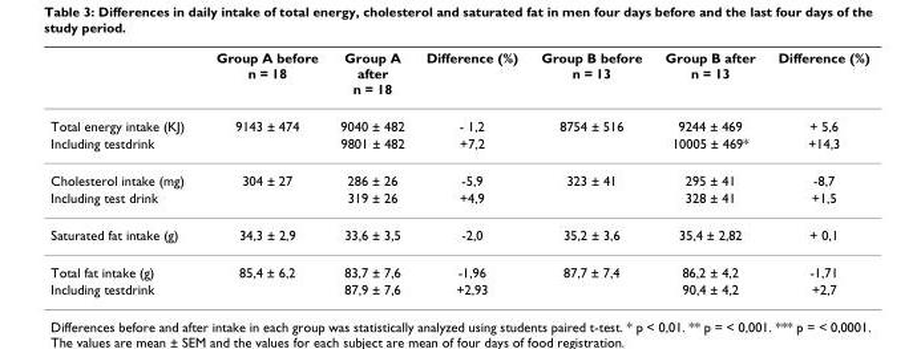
<table><thead><tr><td></td><td>Group A before n = 18</td><td>Group A after n = 18</td><td>Difference (%)</td><td>Group B before n = 13</td><td>Group B after n = 13</td><td>Difference (%)</td></tr></thead><tbody><tr><td>Total energy intake (KJ)</td><td>9143 ± 474</td><td>9040 ± 482</td><td>- 1,2</td><td>8754 ± 516</td><td>9244 ± 469</td><td>+ 5,6</td></tr><tr><td>Including testdrink</td><td></td><td>9801 ± 482</td><td>+7,2</td><td></td><td>10005 ± 469*</td><td>+14,3</td></tr><tr><td>Cholesterol intake (mg)</td><td>304 ± 27</td><td>286 ± 26</td><td>-5,9</td><td>323 ± 41</td><td>295 ± 41</td><td>-8,7</td></tr><tr><td>Including test drink</td><td></td><td>319 ± 26</td><td>+4,9</td><td></td><td>328 ± 41</td><td>+1,5</td></tr><tr><td>Saturated fat intake (g)</td><td>34,3 ± 2,9</td><td>33,6 ± 3,5</td><td>-2,0</td><td>35,2 ± 3,6</td><td>35,4 ± 2,82</td><td>+ 0,1</td></tr><tr><td>Total fat intake (g)</td><td>85,4 ± 6,2</td><td>83,7 ± 7,6</td><td>-1,96</td><td>87,7 ± 7,4</td><td>86,2 ± 4,2</td><td>-1,71</td></tr><tr><td>Including testdrink</td><td></td><td>87,9 ± 7,6</td><td>+2,93</td><td></td><td>90,4 ± 4,2</td><td>+2,7</td></tr></tbody></table>